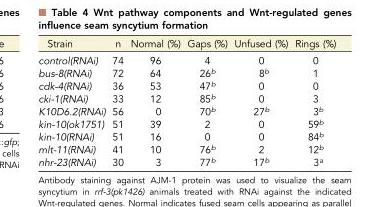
<table><thead><tr><td>Strain</td><td>n</td><td>Normal (%)</td><td>Gaps (%)</td><td>Unfused (%)</td><td>Rings (%)</td></tr></thead><tbody><tr><td>control(RNAi)</td><td>74</td><td>96</td><td>4</td><td>0</td><td>0</td></tr><tr><td>bus-8(RNAi)</td><td>72</td><td>64</td><td>26<sup>b</sup></td><td>8<sup>b</sup></td><td>1</td></tr><tr><td>cdk-4(RNAi)</td><td>36</td><td>53</td><td>47<sup>b</sup></td><td>0</td><td>0</td></tr><tr><td>cki-1(RNAi)</td><td>33</td><td>12</td><td>85<sup>b</sup></td><td>0</td><td>3</td></tr><tr><td>K10D6.2(RNAi)</td><td>56</td><td>0</td><td>70<sup>b</sup></td><td>27<sup>b</sup></td><td>3<sup>b</sup></td></tr><tr><td>kin-10(ok1751)</td><td>51</td><td>39</td><td>2</td><td>0</td><td>59<sup>b</sup></td></tr><tr><td>kin-10(RNAi)</td><td>51</td><td>16</td><td>0</td><td>0</td><td>84<sup>b</sup></td></tr><tr><td>mlt-11(RNAi)</td><td>41</td><td>10</td><td>76<sup>b</sup></td><td>2</td><td>12<sup>b</sup></td></tr><tr><td>nhr-23(RNAi)</td><td>30</td><td>3</td><td>77<sup>b</sup></td><td>17<sup>b</sup></td><td>3<sup>a</sup></td></tr></tbody></table>